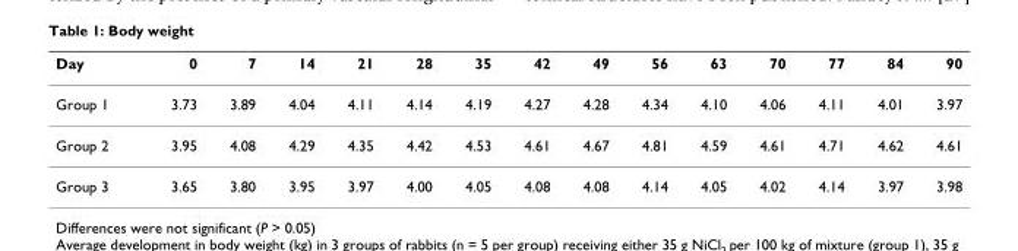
<table><thead><tr><td>Day</td><td>0</td><td>7</td><td>14</td><td>21</td><td>28</td><td>35</td><td>42</td><td>49</td><td>56</td><td>63</td><td>70</td><td>77</td><td>84</td><td>90</td></tr></thead><tbody><tr><td>Group 1</td><td>3.73</td><td>3.89</td><td>4.04</td><td>4.11</td><td>4.14</td><td>4.19</td><td>4.27</td><td>4.28</td><td>4.34</td><td>4.10</td><td>4.06</td><td>4.11</td><td>4.01</td><td>3.97</td></tr><tr><td>Group 2</td><td>3.95</td><td>4.08</td><td>4.29</td><td>4.35</td><td>4.42</td><td>4.53</td><td>4.61</td><td>4.67</td><td>4.81</td><td>4.59</td><td>4.61</td><td>4.71</td><td>4.62</td><td>4.61</td></tr><tr><td>Group 3</td><td>3.65</td><td>3.80</td><td>3.95</td><td>3.97</td><td>4.00</td><td>4.05</td><td>4.08</td><td>4.08</td><td>4.14</td><td>4.05</td><td>4.02</td><td>4.14</td><td>3.97</td><td>3.98</td></tr></tbody></table>